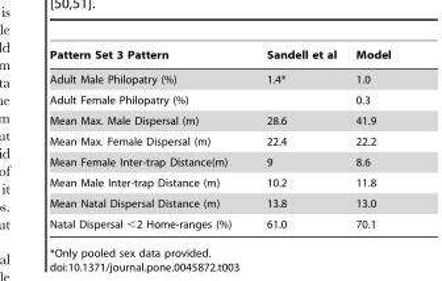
<table><thead><tr><td>Pattern Set 3 Pattern</td><td>Sandell et al</td><td>Model</td></tr></thead><tbody><tr><td>Adult Male Philopatry (%)</td><td>1.4*</td><td>1.0</td></tr><tr><td>Adult Female Philopatry (%)</td><td></td><td>0.3</td></tr><tr><td>Mean Max. Male Dispersal (m)</td><td>28.6</td><td>41.9</td></tr><tr><td>Mean Max. Female Dispersal (m)</td><td>22.4</td><td>22.2</td></tr><tr><td>Mean Female Inter-trap Distance(m)</td><td>9</td><td>8.6</td></tr><tr><td>Mean Male Inter-trap Distance (m)</td><td>10.2</td><td>11.8</td></tr><tr><td>Mean Natal Dispersal Distance (m)</td><td>13.8</td><td>13.0</td></tr><tr><td>Natal Dispersal &lt;2 Home-ranges (%)</td><td>61.0</td><td>70.1</td></tr></tbody></table>